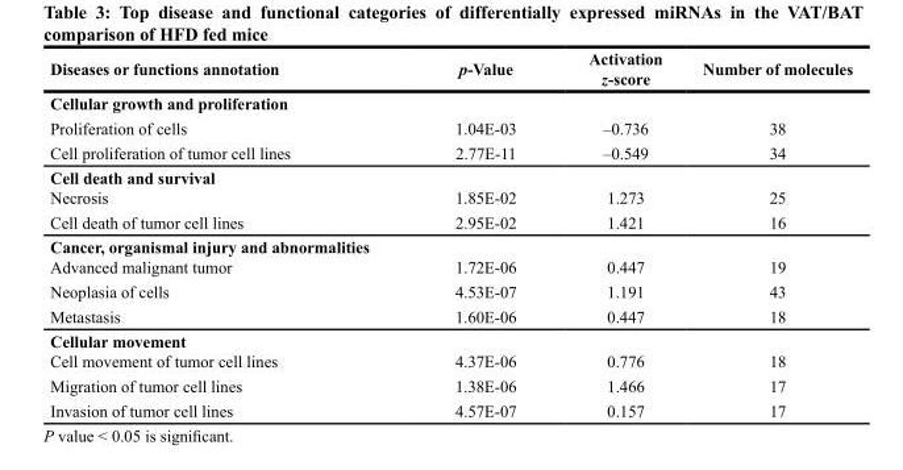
<table><thead><tr><td>Diseases or functions annotation</td><td>p-Value</td><td>Activation z-score</td><td>Number of molecules</td></tr></thead><tbody><tr><td colspan="4">Cellular growth and proliferation</td></tr><tr><td>Proliferation of cells</td><td>1.04E-03</td><td>–0.736</td><td>38</td></tr><tr><td>Cell proliferation of tumor cell lines</td><td>2.77E-11</td><td>–0.549</td><td>34</td></tr><tr><td colspan="4">Cell death and survival</td></tr><tr><td>Necrosis</td><td>1.85E-02</td><td>1.273</td><td>25</td></tr><tr><td>Cell death of tumor cell lines</td><td>2.95E-02</td><td>1.421</td><td>16</td></tr><tr><td colspan="4">Cancer, organismal injury and abnormalities</td></tr><tr><td>Advanced malignant tumor</td><td>1.72E-06</td><td>0.447</td><td>19</td></tr><tr><td>Neoplasia of cells</td><td>4.53E-07</td><td>1.191</td><td>43</td></tr><tr><td>Metastasis</td><td>1.60E-06</td><td>0.447</td><td>18</td></tr><tr><td colspan="4">Cellular movement</td></tr><tr><td>Cell movement of tumor cell lines</td><td>4.37E-06</td><td>0.776</td><td>18</td></tr><tr><td>Migration of tumor cell lines</td><td>1.38E-06</td><td>1.466</td><td>17</td></tr><tr><td>Invasion of tumor cell lines</td><td>4.57E-07</td><td>0.157</td><td>17</td></tr></tbody></table>